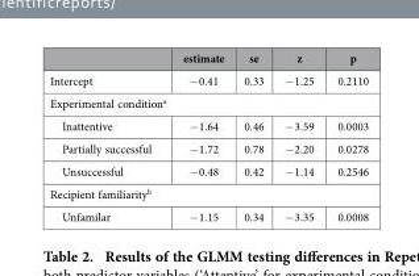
<table><thead><tr><td></td><td>estimate</td><td>se</td><td>z</td><td>p</td></tr></thead><tbody><tr><td>Intercept</td><td>− 0.41</td><td>0.33</td><td>− 1.25</td><td>0.2110</td></tr><tr><td colspan="5">Experimental condition<sup>a</sup></td></tr><tr><td>Inattentive</td><td>− 1.64</td><td>0.46</td><td>− 3.59</td><td>0.0003</td></tr><tr><td>Partially successful</td><td>− 1.72</td><td>0.78</td><td>− 2.20</td><td>0.0278</td></tr><tr><td>Unsuccessful</td><td>− 0.48</td><td>0.42</td><td>− 1.14</td><td>0.2546</td></tr><tr><td colspan="5">Recipient familiarity<sup>b</sup></td></tr><tr><td>Unfamilar</td><td>− 1.15</td><td>0.34</td><td>− 3.35</td><td>0.0008</td></tr></tbody></table>